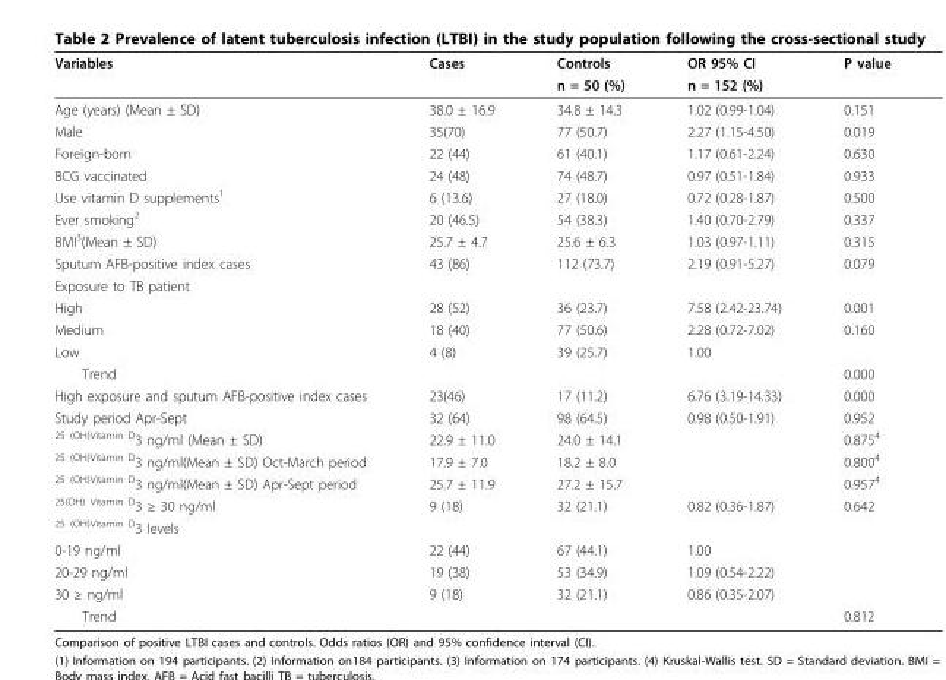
<table><thead><tr><td rowspan="2">Variables</td><td rowspan="2">Cases</td><td rowspan="2">Controls n = 50 (%)</td><td rowspan="2">OR 95% CI n = 152 (%)</td><td rowspan="2">P value</td></tr><tr></tr></thead><tbody><tr><td>Age (years) (Mean ± SD)</td><td>38.0 ± 16.9</td><td>34.8 ± 14.3</td><td>1.02 (0.99-1.04)</td><td>0.151</td></tr><tr><td>Male</td><td>35(70)</td><td>77 (50.7)</td><td>2.27 (1.15-4.50)</td><td>0.019</td></tr><tr><td>Foreign-born</td><td>22 (44)</td><td>61 (40.1)</td><td>1.17 (0.61-2.24)</td><td>0.630</td></tr><tr><td>BCG vaccinated</td><td>24 (48)</td><td>74 (48.7)</td><td>0.97 (0.51-1.84)</td><td>0.933</td></tr><tr><td>Use vitamin D supplements<sup>1</sup></td><td>6 (13.6)</td><td>27 (18.0)</td><td>0.72 (0.28-1.87)</td><td>0.500</td></tr><tr><td>Ever smoking<sup>2</sup></td><td>20 (46.5)</td><td>54 (38.3)</td><td>1.40 (0.70-2.79)</td><td>0.337</td></tr><tr><td>BMI<sup>3</sup>(Mean ± SD)</td><td>25.7 ± 4.7</td><td>25.6 ± 6.3</td><td>1.03 (0.97-1.11)</td><td>0.315</td></tr><tr><td>Sputum AFB-positive index cases</td><td>43 (86)</td><td>112 (73.7)</td><td>2.19 (0.91-5.27)</td><td>0.079</td></tr><tr><td colspan="5">Exposure to TB patient</td></tr><tr><td>High</td><td>28 (52)</td><td>36 (23.7)</td><td>7.58 (2.42-23.74)</td><td>0.001</td></tr><tr><td>Medium</td><td>18 (40)</td><td>77 (50.6)</td><td>2.28 (0.72-7.02)</td><td>0.160</td></tr><tr><td>Low</td><td>4 (8)</td><td>39 (25.7)</td><td>1.00</td><td></td></tr><tr><td>Trend</td><td></td><td></td><td></td><td>0.000</td></tr><tr><td>High exposure and sputum AFB-positive index cases</td><td>23(46)</td><td>17 (11.2)</td><td>6.76 (3.19-14.33)</td><td>0.000</td></tr><tr><td>Study period Apr-Sept</td><td>32 (64)</td><td>98 (64.5)</td><td>0.98 (0.50-1.91)</td><td>0.952</td></tr><tr><td><sup>25 (OH)Vitamin D</sup>3 ng/ml (Mean ± SD)</td><td>22.9 ± 11.0</td><td>24.0 ± 14.1</td><td></td><td>0.875<sup>4</sup></td></tr><tr><td><sup>25 (OH)Vitamin D</sup>3 ng/ml(Mean ± SD) Oct-March period</td><td>17.9 ± 7.0</td><td>18.2 ± 8.0</td><td></td><td>0.800<sup>4</sup></td></tr><tr><td><sup>25 (OH)Vitamin D</sup>3 ng/ml(Mean ± SD) Apr-Sept period</td><td>25.7 ± 11.9</td><td>27.2 ± 15.7</td><td></td><td>0.957<sup>4</sup></td></tr><tr><td><sup>25(OH) Vitamin D</sup>3 ≥ 30 ng/ml</td><td>9 (18)</td><td>32 (21.1)</td><td>0.82 (0.36-1.87)</td><td>0.642</td></tr><tr><td colspan="5"><sup>25 (OH)Vitamin D</sup>3 levels</td></tr><tr><td>0-19 ng/ml</td><td>22 (44)</td><td>67 (44.1)</td><td>1.00</td><td></td></tr><tr><td>20-29 ng/ml</td><td>19 (38)</td><td>53 (34.9)</td><td>1.09 (0.54-2.22)</td><td></td></tr><tr><td>30 ≥ ng/ml</td><td>9 (18)</td><td>32 (21.1)</td><td>0.86 (0.35-2.07)</td><td></td></tr><tr><td>Trend</td><td></td><td></td><td></td><td>0.812</td></tr></tbody></table>